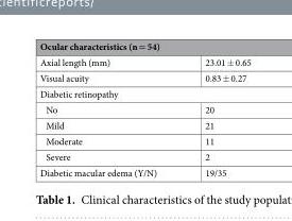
<table><thead><tr><td colspan="2">Ocular characteristics (n = 54)</td></tr><tr><td>Axial length (mm)</td><td>23.01 ± 0.65</td></tr></thead><tbody><tr><td>Visual acuity</td><td>0.83 ± 0.27</td></tr><tr><td colspan="2">Diabetic retinopathy</td></tr><tr><td>No</td><td>20</td></tr><tr><td>Mild</td><td>21</td></tr><tr><td>Moderate</td><td>11</td></tr><tr><td>Severe</td><td>2</td></tr><tr><td>Diabetic macular edema (Y/N)</td><td>19/35</td></tr></tbody></table>